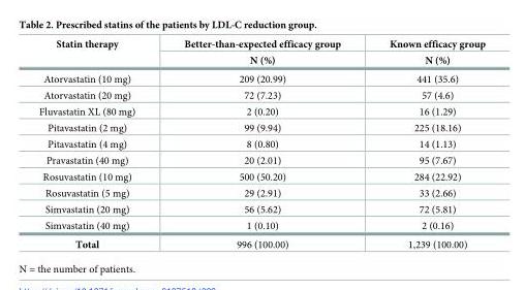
<table><thead><tr><td rowspan="2">Statin therapy</td><td rowspan="2">Better-than-expected efficacy group N (%)</td><td rowspan="2">Known efficacy group N (%)</td></tr><tr></tr></thead><tbody><tr><td>Atorvastatin (10 mg)</td><td>209 (20.99)</td><td>441 (35.6)</td></tr><tr><td>Atorvastatin (20 mg)</td><td>72 (7.23)</td><td>57 (4.6)</td></tr><tr><td>Fluvastatin XL (80 mg)</td><td>2 (0.20)</td><td>16 (1.29)</td></tr><tr><td>Pitavastatin (2 mg)</td><td>99 (9.94)</td><td>225 (18.16)</td></tr><tr><td>Pitavastatin (4 mg)</td><td>8 (0.80)</td><td>14 (1.13)</td></tr><tr><td>Pravastatin (40 mg)</td><td>20 (2.01)</td><td>95 (7.67)</td></tr><tr><td>Rosuvastatin (10 mg)</td><td>500 (50.20)</td><td>284 (22.92)</td></tr><tr><td>Rosuvastatin (5 mg)</td><td>29 (2.91)</td><td>33 (2.66)</td></tr><tr><td>Simvastatin (20 mg)</td><td>56 (5.62)</td><td>72 (5.81)</td></tr><tr><td>Simvastatin (40 mg)</td><td>1 (0.10)</td><td>2 (0.16)</td></tr><tr><td>Total</td><td>996 (100.00)</td><td>1,239 (100.00)</td></tr></tbody></table>